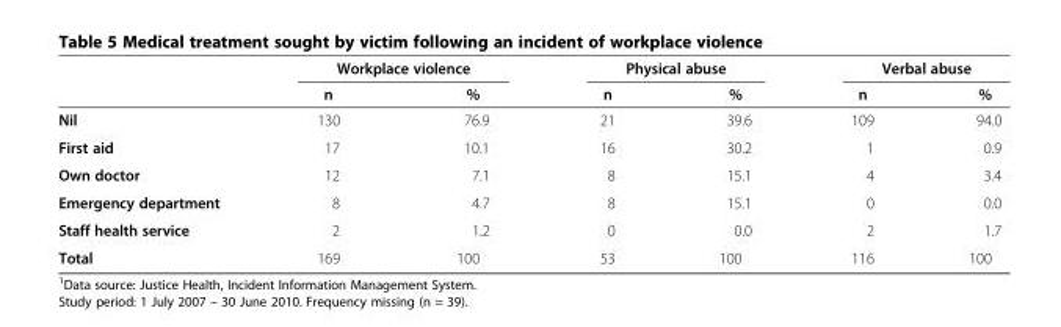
<table><thead><tr><td rowspan="2"></td><td colspan="2">Workplace violence</td><td colspan="2">Physical abuse</td><td colspan="2">Verbal abuse</td></tr><tr><td>n</td><td>%</td><td>n</td><td>%</td><td>n</td><td>%</td></tr></thead><tbody><tr><td>Nil</td><td>130</td><td>76.9</td><td>21</td><td>39.6</td><td>109</td><td>94.0</td></tr><tr><td>First aid</td><td>17</td><td>10.1</td><td>16</td><td>30.2</td><td>1</td><td>0.9</td></tr><tr><td>Own doctor</td><td>12</td><td>7.1</td><td>8</td><td>15.1</td><td>4</td><td>3.4</td></tr><tr><td>Emergency department</td><td>8</td><td>4.7</td><td>8</td><td>15.1</td><td>0</td><td>0.0</td></tr><tr><td>Staff health service</td><td>2</td><td>1.2</td><td>0</td><td>0.0</td><td>2</td><td>1.7</td></tr><tr><td>Total</td><td>169</td><td>100</td><td>53</td><td>100</td><td>116</td><td>100</td></tr></tbody></table>